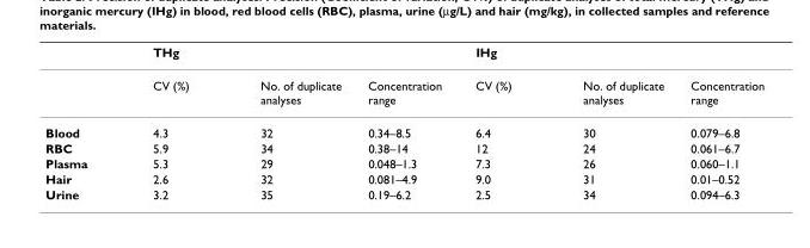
<table><thead><tr><td></td><td>THg</td><td></td><td></td><td>IHg</td><td></td><td></td></tr></thead><tbody><tr><td></td><td>CV (%)</td><td>No. of duplicate analyses</td><td>Concentration range</td><td>CV (%)</td><td>No. of duplicate analyses</td><td>Concentration range</td></tr><tr><td>Blood</td><td>4.3</td><td>32</td><td>0.34–8.5</td><td>6.4</td><td>30</td><td>0.079–6.8</td></tr><tr><td>RBC</td><td>5.9</td><td>34</td><td>0.38–14</td><td>12</td><td>24</td><td>0.061–6.7</td></tr><tr><td>Plasma</td><td>5.3</td><td>29</td><td>0.048–1.3</td><td>7.3</td><td>26</td><td>0.060–1.1</td></tr><tr><td>Hair</td><td>2.6</td><td>32</td><td>0.081–4.9</td><td>9.0</td><td>31</td><td>0.01–0.52</td></tr><tr><td>Urine</td><td>3.2</td><td>35</td><td>0.19–6.2</td><td>2.5</td><td>34</td><td>0.094–6.3</td></tr></tbody></table>